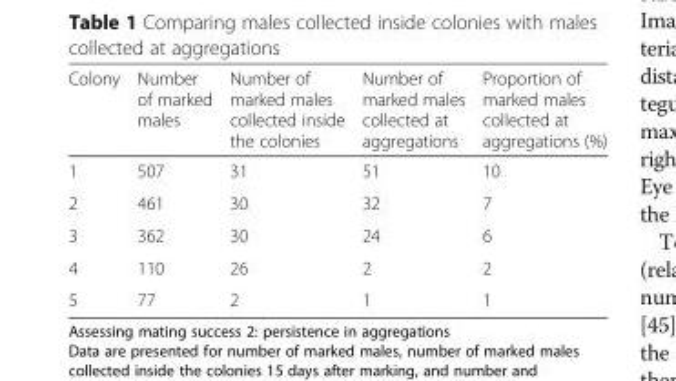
<table><thead><tr><td>Colony</td><td>Number of marked males</td><td>Number of marked males collected inside the colonies</td><td>Number of marked males collected at aggregations</td><td>Proportion of marked males collected at aggregations (%)</td></tr></thead><tbody><tr><td>1</td><td>507</td><td>31</td><td>51</td><td>10</td></tr><tr><td>2</td><td>461</td><td>30</td><td>32</td><td>7</td></tr><tr><td>3</td><td>362</td><td>30</td><td>24</td><td>6</td></tr><tr><td>4</td><td>110</td><td>26</td><td>2</td><td>2</td></tr><tr><td>5</td><td>77</td><td>2</td><td>1</td><td>1</td></tr></tbody></table>